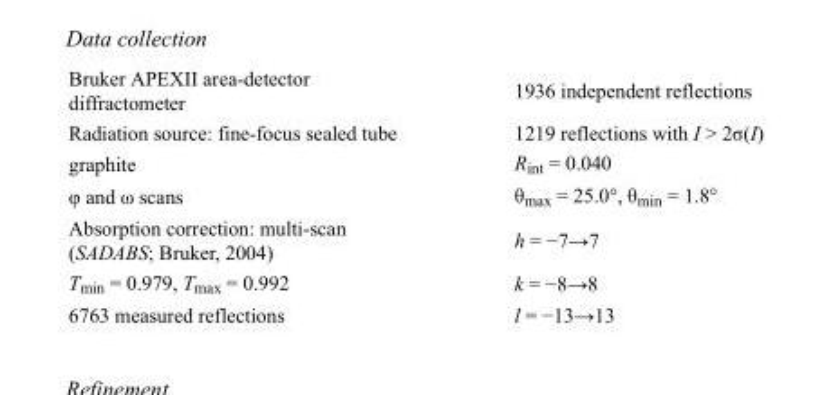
<table><tbody><tr><td>Bruker APEXII area-detector diffractometer</td><td>1936 independent reflections</td></tr><tr><td>Radiation source: fine-focus sealed tube</td><td>1219 reflections with I &gt; 2σ(I)</td></tr><tr><td>graphite</td><td>R<sub>int</sub> = 0.040</td></tr><tr><td>φ and ω scans</td><td>θ<sub>max</sub> = 25.0°, θ<sub>min</sub> = 1.8°</td></tr><tr><td>Absorption correction: multi-scan (SADABS; Bruker, 2004)</td><td>h = −7→7</td></tr><tr><td>T<sub>min</sub> = 0.979, T<sub>max</sub> = 0.992</td><td>k = −8→8</td></tr><tr><td>6763 measured reflections</td><td>l = −13→13</td></tr></tbody></table>